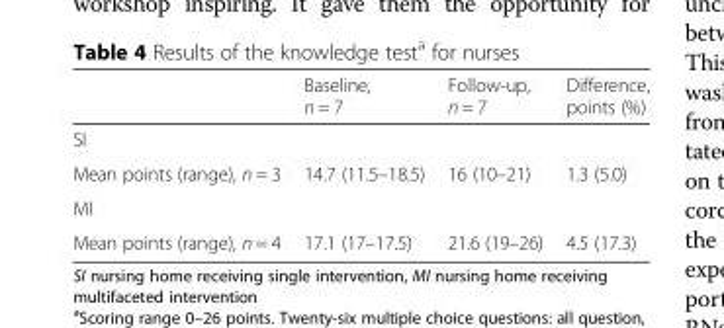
<table><thead><tr><td></td><td>Baseline, n = 7</td><td>Follow-up, n = 7</td><td>Difference, points (%)</td></tr></thead><tbody><tr><td colspan="4">SI</td></tr><tr><td>Mean points (range), n = 3</td><td>14.7 (11.5–18.5)</td><td>16 (10–21)</td><td>1.3 (5.0)</td></tr><tr><td colspan="4">MI</td></tr><tr><td>Mean points (range), n = 4</td><td>17.1 (17–17.5)</td><td>21.6 (19–26)</td><td>4.5 (17.3)</td></tr></tbody></table>